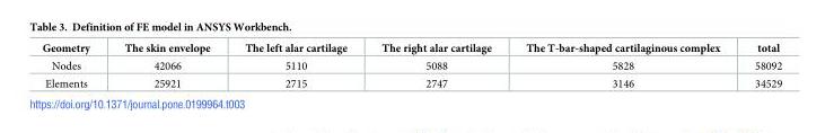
<table><thead><tr><td>Geometry</td><td>The skin envelope</td><td>The left alar cartilage</td><td>The right alar cartilage</td><td>The T-bar-shaped cartilaginous complex</td><td>total</td></tr></thead><tbody><tr><td>Nodes</td><td>42066</td><td>5110</td><td>5088</td><td>5828</td><td>58092</td></tr><tr><td>Elements</td><td>25921</td><td>2715</td><td>2747</td><td>3146</td><td>34529</td></tr></tbody></table>